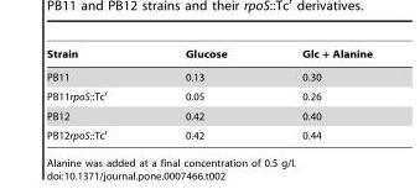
<table><thead><tr><td>Strain</td><td>Glucose</td><td>Glc + Alanine</td></tr></thead><tbody><tr><td>PB11</td><td>0.13</td><td>0.30</td></tr><tr><td>PB11rpoS::Tc<sup>r</sup></td><td>0.05</td><td>0.26</td></tr><tr><td>PB12</td><td>0.42</td><td>0.40</td></tr><tr><td>PB12rpoS::Tc<sup>r</sup></td><td>0.42</td><td>0.44</td></tr></tbody></table>